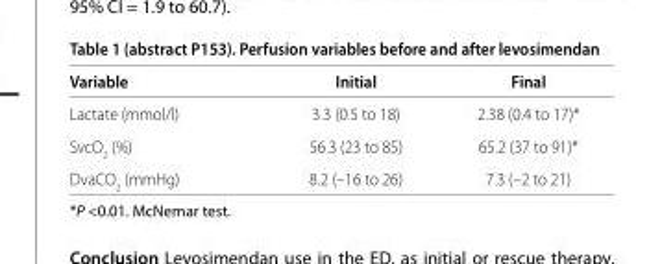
<table><thead><tr><td>Variable</td><td>Initial</td><td>Final</td></tr></thead><tbody><tr><td>Lactate (mmol/l)</td><td>3.3 (0.5 to 18)</td><td>2.38 (0.4 to 17)*</td></tr><tr><td>SvcO<sub>2</sub> (%)</td><td>56.3 (23 to 85)</td><td>65.2 (37 to 91)*</td></tr><tr><td>DvaCO<sub>2</sub> (mmHg)</td><td>8.2 (–16 to 26)</td><td>7.3 (–2 to 21)</td></tr></tbody></table>